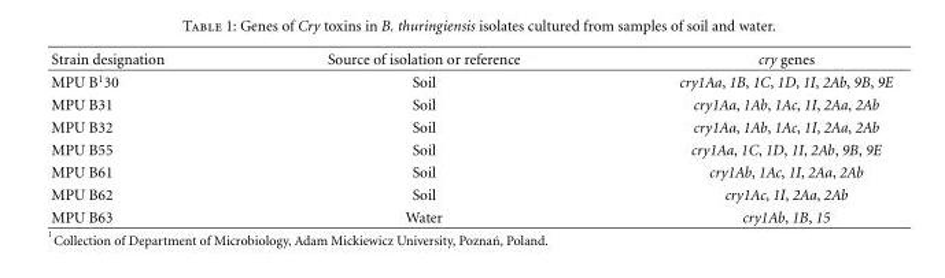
<table><thead><tr><td>Strain designation</td><td>Source of isolation or reference</td><td>cry genes</td></tr></thead><tbody><tr><td>MPU B<sup>1</sup>30</td><td>Soil</td><td>cry1Aa, 1B, 1C, 1D, 1I, 2Ab, 9B, 9E</td></tr><tr><td>MPU B31</td><td>Soil</td><td>cry1Aa, 1Ab, 1Ac, 1I, 2Aa, 2Ab</td></tr><tr><td>MPU B32</td><td>Soil</td><td>cry1Aa, 1Ab, 1Ac, 1I, 2Aa, 2Ab</td></tr><tr><td>MPU B55</td><td>Soil</td><td>cry1Aa, 1C, 1D, 1I, 2Ab, 9B, 9E</td></tr><tr><td>MPU B61</td><td>Soil</td><td>cry1Ab, 1Ac, 1I, 2Aa, 2Ab</td></tr><tr><td>MPU B62</td><td>Soil</td><td>cry1Ac, 1I, 2Aa, 2Ab</td></tr><tr><td>MPU B63</td><td>Water</td><td>cry1Ab, 1B, 15</td></tr></tbody></table>